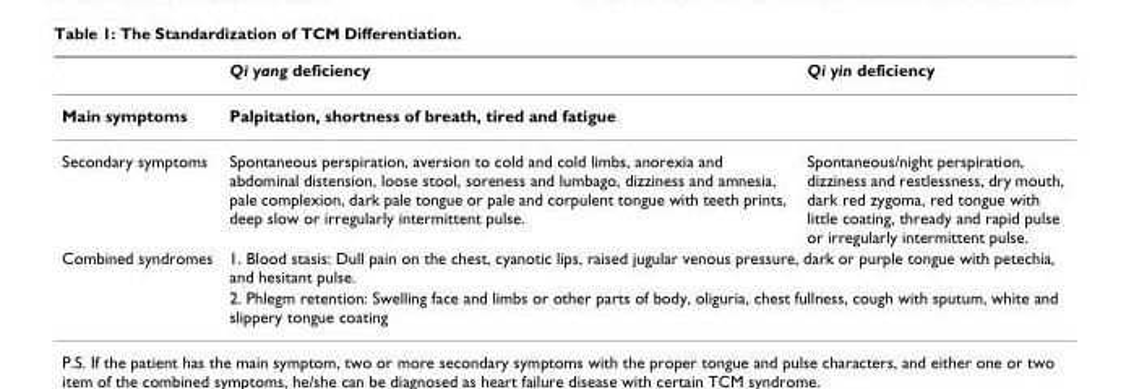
<table><thead><tr><td></td><td>Qi yang deficiency</td><td>Qi yin deficiency</td></tr></thead><tbody><tr><td>Main symptoms</td><td colspan="2">Palpitation, shortness of breath, tired and fatigue</td></tr><tr><td>Secondary symptoms</td><td>Spontaneous perspiration, aversion to cold and cold limbs, anorexia and abdominal distension, loose stool, soreness and lumbago, dizziness and amnesia, pale complexion, dark pale tongue or pale and corpulent tongue with teeth prints, deep slow or irregularly intermittent pulse.</td><td>Spontaneous/night perspiration, dizziness and restlessness, dry mouth, dark red zygoma, red tongue with little coating, thready and rapid pulse or irregularly intermittent pulse.</td></tr><tr><td rowspan="2">Combined syndromes</td><td colspan="2">1. Blood stasis: Dull pain on the chest, cyanotic lips, raised jugular venous pressure, dark or purple tongue with petechia, and hesitant pulse.</td></tr><tr><td colspan="2">2. Phlegm retention: Swelling face and limbs or other parts of body, oliguria, chest fullness, cough with sputum, white and slippery tongue coating</td></tr></tbody></table>